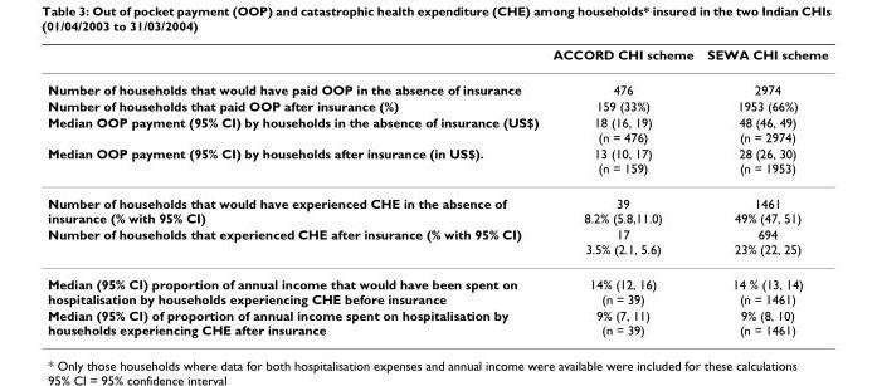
<table><thead><tr><td></td><td>ACCORD CHI scheme</td><td>SEWA CHI scheme</td></tr></thead><tbody><tr><td>Number of households that would have paid OOP in the absence of insurance</td><td>476</td><td>2974</td></tr><tr><td>Number of households that paid OOP after insurance (%)</td><td>159 (33%)</td><td>1953 (66%)</td></tr><tr><td>Median OOP payment (95% CI) by households in the absence of insurance (US$)</td><td>18 (16, 19) (n = 476)</td><td>48 (46, 49) (n = 2974)</td></tr><tr><td>Median OOP payment (95% CI) by households after insurance (in US$).</td><td>13 (10, 17) (n = 159)</td><td>28 (26, 30) (n = 1953)</td></tr><tr><td>Number of households that would have experienced CHE in the absence of insurance (% with 95% CI)</td><td>39 8.2% (5.8,11.0)</td><td>1461 49% (47, 51)</td></tr><tr><td>Number of households that experienced CHE after insurance (% with 95% CI)</td><td>17 3.5% (2.1, 5.6)</td><td>694 23% (22, 25)</td></tr><tr><td>Median (95% CI) proportion of annual income that would have been spent on hospitalisation by households experiencing CHE before insurance</td><td>14% (12, 16) (n = 39)</td><td>14 % (13, 14) (n = 1461)</td></tr><tr><td>Median (95% CI) of proportion of annual income spent on hospitalisation by households experiencing CHE after insurance</td><td>9% (7, 11) (n = 39)</td><td>9% (8, 10) (n = 1461)</td></tr></tbody></table>